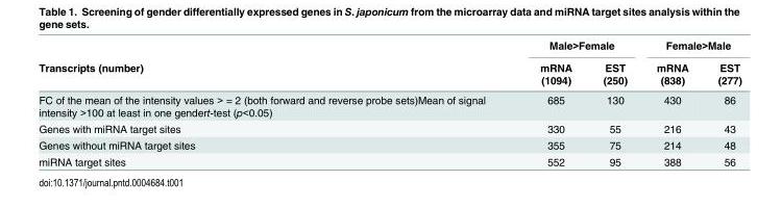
<table><thead><tr><td rowspan="2">Transcripts (number)</td><td colspan="2">Male&gt;Female</td><td colspan="2">Female&gt;Male</td></tr><tr><td>mRNA (1094)</td><td>EST (250)</td><td>mRNA (838)</td><td>EST (277)</td></tr></thead><tbody><tr><td>FC of the mean of the intensity values &gt; = 2 (both forward and reverse probe sets)Mean of signal intensity &gt;100 at least in one gendert-test (p&lt;0.05)</td><td>685</td><td>130</td><td>430</td><td>86</td></tr><tr><td>Genes with miRNA target sites</td><td>330</td><td>55</td><td>216</td><td>43</td></tr><tr><td>Genes without miRNA target sites</td><td>355</td><td>75</td><td>214</td><td>48</td></tr><tr><td>miRNA target sites</td><td>552</td><td>95</td><td>388</td><td>56</td></tr></tbody></table>